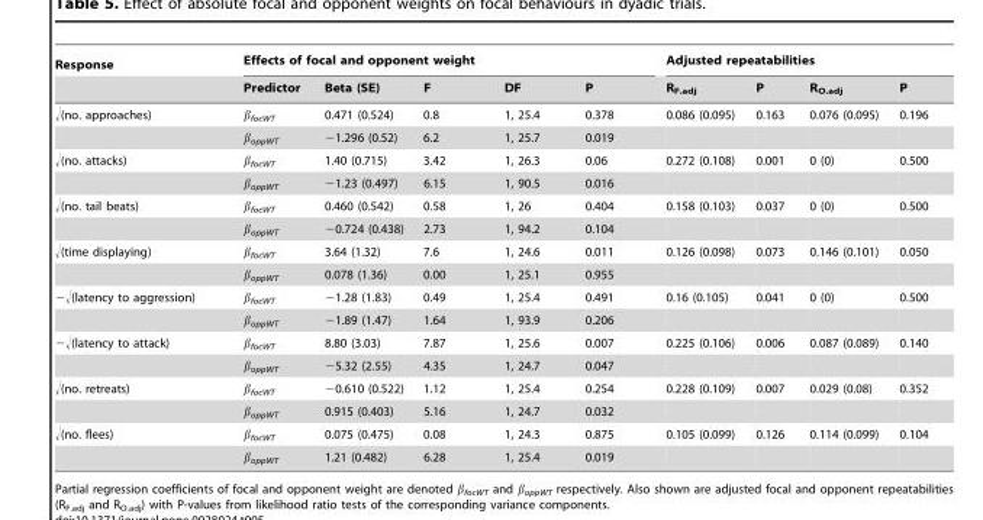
<table><thead><tr><td rowspan="2">Response</td><td colspan="5">Effects of focal and opponent weight</td><td colspan="4">Adjusted repeatabilities</td></tr><tr><td>Predictor</td><td>Beta (SE)</td><td>F</td><td>DF</td><td>P</td><td>R<sub>F.adj</sub></td><td>P</td><td>R<sub>O.adj</sub></td><td>P</td></tr></thead><tbody><tr><td rowspan="2">√(no. approaches)</td><td>β<sub>focWT</sub></td><td>0.471 (0.524)</td><td>0.8</td><td>1, 25.4</td><td>0.378</td><td>0.086 (0.095)</td><td>0.163</td><td>0.076 (0.095)</td><td>0.196</td></tr><tr><td>β<sub>oppWT</sub></td><td>−1.296 (0.52)</td><td>6.2</td><td>1, 25.7</td><td>0.019</td><td></td><td></td><td></td><td></td></tr><tr><td rowspan="2">√(no. attacks)</td><td>β<sub>focWT</sub></td><td>1.40 (0.715)</td><td>3.42</td><td>1, 26.3</td><td>0.06</td><td>0.272 (0.108)</td><td>0.001</td><td>0 (0)</td><td>0.500</td></tr><tr><td>β<sub>oppWT</sub></td><td>−1.23 (0.497)</td><td>6.15</td><td>1, 90.5</td><td>0.016</td><td></td><td></td><td></td><td></td></tr><tr><td rowspan="2">√(no. tail beats)</td><td>β<sub>focWT</sub></td><td>0.460 (0.542)</td><td>0.58</td><td>1, 26</td><td>0.404</td><td>0.158 (0.103)</td><td>0.037</td><td>0 (0)</td><td>0.500</td></tr><tr><td>β<sub>oppWT</sub></td><td>−0.724 (0.438)</td><td>2.73</td><td>1, 94.2</td><td>0.104</td><td></td><td></td><td></td><td></td></tr><tr><td rowspan="2">√(time displaying)</td><td>β<sub>focWT</sub></td><td>3.64 (1.32)</td><td>7.6</td><td>1, 24.6</td><td>0.011</td><td>0.126 (0.098)</td><td>0.073</td><td>0.146 (0.101)</td><td>0.050</td></tr><tr><td>β<sub>oppWT</sub></td><td>0.078 (1.36)</td><td>0.00</td><td>1, 25.1</td><td>0.955</td><td></td><td></td><td></td><td></td></tr><tr><td rowspan="2">−√(latency to aggression)</td><td>β<sub>focWT</sub></td><td>−1.28 (1.83)</td><td>0.49</td><td>1, 25.4</td><td>0.491</td><td>0.16 (0.105)</td><td>0.041</td><td>0 (0)</td><td>0.500</td></tr><tr><td>β<sub>oppWT</sub></td><td>−1.89 (1.47)</td><td>1.64</td><td>1, 93.9</td><td>0.206</td><td></td><td></td><td></td><td></td></tr><tr><td rowspan="2">−√(latency to attack)</td><td>β<sub>focWT</sub></td><td>8.80 (3.03)</td><td>7.87</td><td>1, 25.6</td><td>0.007</td><td>0.225 (0.106)</td><td>0.006</td><td>0.087 (0.089)</td><td>0.140</td></tr><tr><td>β<sub>oppWT</sub></td><td>−5.32 (2.55)</td><td>4.35</td><td>1, 24.7</td><td>0.047</td><td></td><td></td><td></td><td></td></tr><tr><td rowspan="2">√(no. retreats)</td><td>β<sub>focWT</sub></td><td>−0.610 (0.522)</td><td>1.12</td><td>1, 25.4</td><td>0.254</td><td>0.228 (0.109)</td><td>0.007</td><td>0.029 (0.08)</td><td>0.352</td></tr><tr><td>β<sub>oppWT</sub></td><td>0.915 (0.403)</td><td>5.16</td><td>1, 24.7</td><td>0.032</td><td></td><td></td><td></td><td></td></tr><tr><td rowspan="2">√(no. flees)</td><td>β<sub>focWT</sub></td><td>0.075 (0.475)</td><td>0.08</td><td>1, 24.3</td><td>0.875</td><td>0.105 (0.099)</td><td>0.126</td><td>0.114 (0.099)</td><td>0.104</td></tr><tr><td>β<sub>oppWT</sub></td><td>1.21 (0.482)</td><td>6.28</td><td>1, 25.4</td><td>0.019</td><td></td><td></td><td></td><td></td></tr></tbody></table>